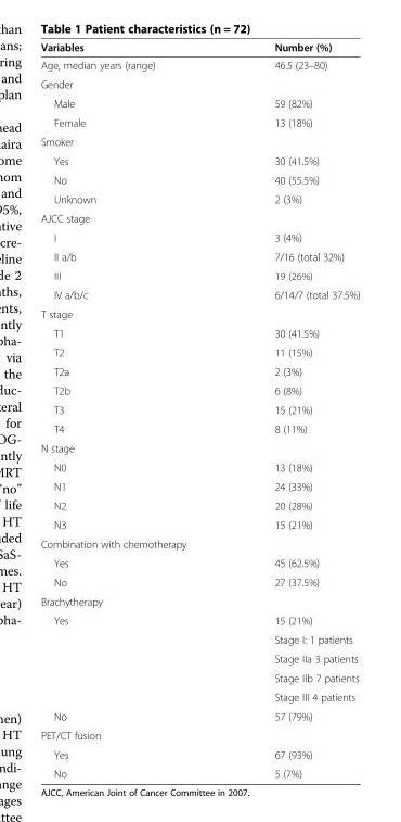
<table><thead><tr><td>Variables</td><td>Number (%)</td></tr></thead><tbody><tr><td>Age, median years (range)</td><td>46.5 (23–80)</td></tr><tr><td colspan="2">Gender</td></tr><tr><td>Male</td><td>59 (82%)</td></tr><tr><td>Female</td><td>13 (18%)</td></tr><tr><td colspan="2">Smoker</td></tr><tr><td>Yes</td><td>30 (41.5%)</td></tr><tr><td>No</td><td>40 (55.5%)</td></tr><tr><td>Unknown</td><td>2 (3%)</td></tr><tr><td colspan="2">AJCC stage</td></tr><tr><td>I</td><td>3 (4%)</td></tr><tr><td>II a/b</td><td>7/16 (total 32%)</td></tr><tr><td>III</td><td>19 (26%)</td></tr><tr><td>IV a/b/c</td><td>6/14/7 (total 37.5%)</td></tr><tr><td colspan="2">T stage</td></tr><tr><td>T1</td><td>30 (41.5%)</td></tr><tr><td>T2</td><td>11 (15%)</td></tr><tr><td>T2a</td><td>2 (3%)</td></tr><tr><td>T2b</td><td>6 (8%)</td></tr><tr><td>T3</td><td>15 (21%)</td></tr><tr><td>T4</td><td>8 (11%)</td></tr><tr><td colspan="2">N stage</td></tr><tr><td>N0</td><td>13 (18%)</td></tr><tr><td>N1</td><td>24 (33%)</td></tr><tr><td>N2</td><td>20 (28%)</td></tr><tr><td>N3</td><td>15 (21%)</td></tr><tr><td colspan="2">Combination with chemotherapy</td></tr><tr><td>Yes</td><td>45 (62.5%)</td></tr><tr><td>No</td><td>27 (37.5%)</td></tr><tr><td colspan="2">Brachytherapy</td></tr><tr><td rowspan="5">Yes</td><td>15 (21%)</td></tr><tr><td>Stage I: 1 patients</td></tr><tr><td>Stage IIa 3 patients</td></tr><tr><td>Stage IIb 7 patients</td></tr><tr><td>Stage III 4 patients</td></tr><tr><td>No</td><td>57 (79%)</td></tr><tr><td colspan="2">PET/CT fusion</td></tr><tr><td>Yes</td><td>67 (93%)</td></tr><tr><td>No</td><td>5 (7%)</td></tr></tbody></table>